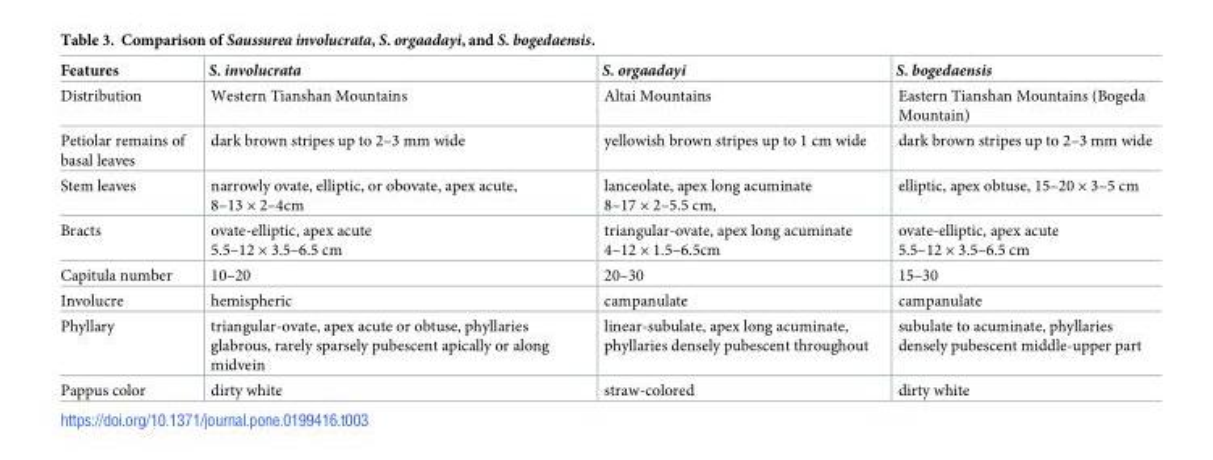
<table><thead><tr><td>Features</td><td>S. involucrata</td><td>S. orgaadayi</td><td>S. bogedaensis</td></tr></thead><tbody><tr><td>Distribution</td><td>Western Tianshan Mountains</td><td>Altai Mountains</td><td>Eastern Tianshan Mountains (Bogeda Mountain)</td></tr><tr><td>Petiolar remains of basal leaves</td><td>dark brown stripes up to 2–3 mm wide</td><td>yellowish brown stripes up to 1 cm wide</td><td>dark brown stripes up to 2–3 mm wide</td></tr><tr><td>Stem leaves</td><td>narrowly ovate, elliptic, or obovate, apex acute, 8–13 × 2–4cm</td><td>lanceolate, apex long acuminate 8–17 × 2–5.5 cm,</td><td>elliptic, apex obtuse, 15–20 × 3–5 cm</td></tr><tr><td>Bracts</td><td>ovate-elliptic, apex acute 5.5–12 × 3.5–6.5 cm</td><td>triangular-ovate, apex long acuminate 4–12 × 1.5–6.5cm</td><td>ovate-elliptic, apex acute 5.5–12 × 3.5–6.5 cm</td></tr><tr><td>Capitula number</td><td>10–20</td><td>20–30</td><td>15–30</td></tr><tr><td>Involucre</td><td>hemispheric</td><td>campanulate</td><td>campanulate</td></tr><tr><td>Phyllary</td><td>triangular-ovate, apex acute or obtuse, phyllaries glabrous, rarely sparsely pubescent apically or along midvein</td><td>linear-subulate, apex long acuminate, phyllaries densely pubescent throughout</td><td>subulate to acuminate, phyllaries densely pubescent middle-upper part</td></tr><tr><td>Pappus color</td><td>dirty white</td><td>straw-colored</td><td>dirty white</td></tr></tbody></table>